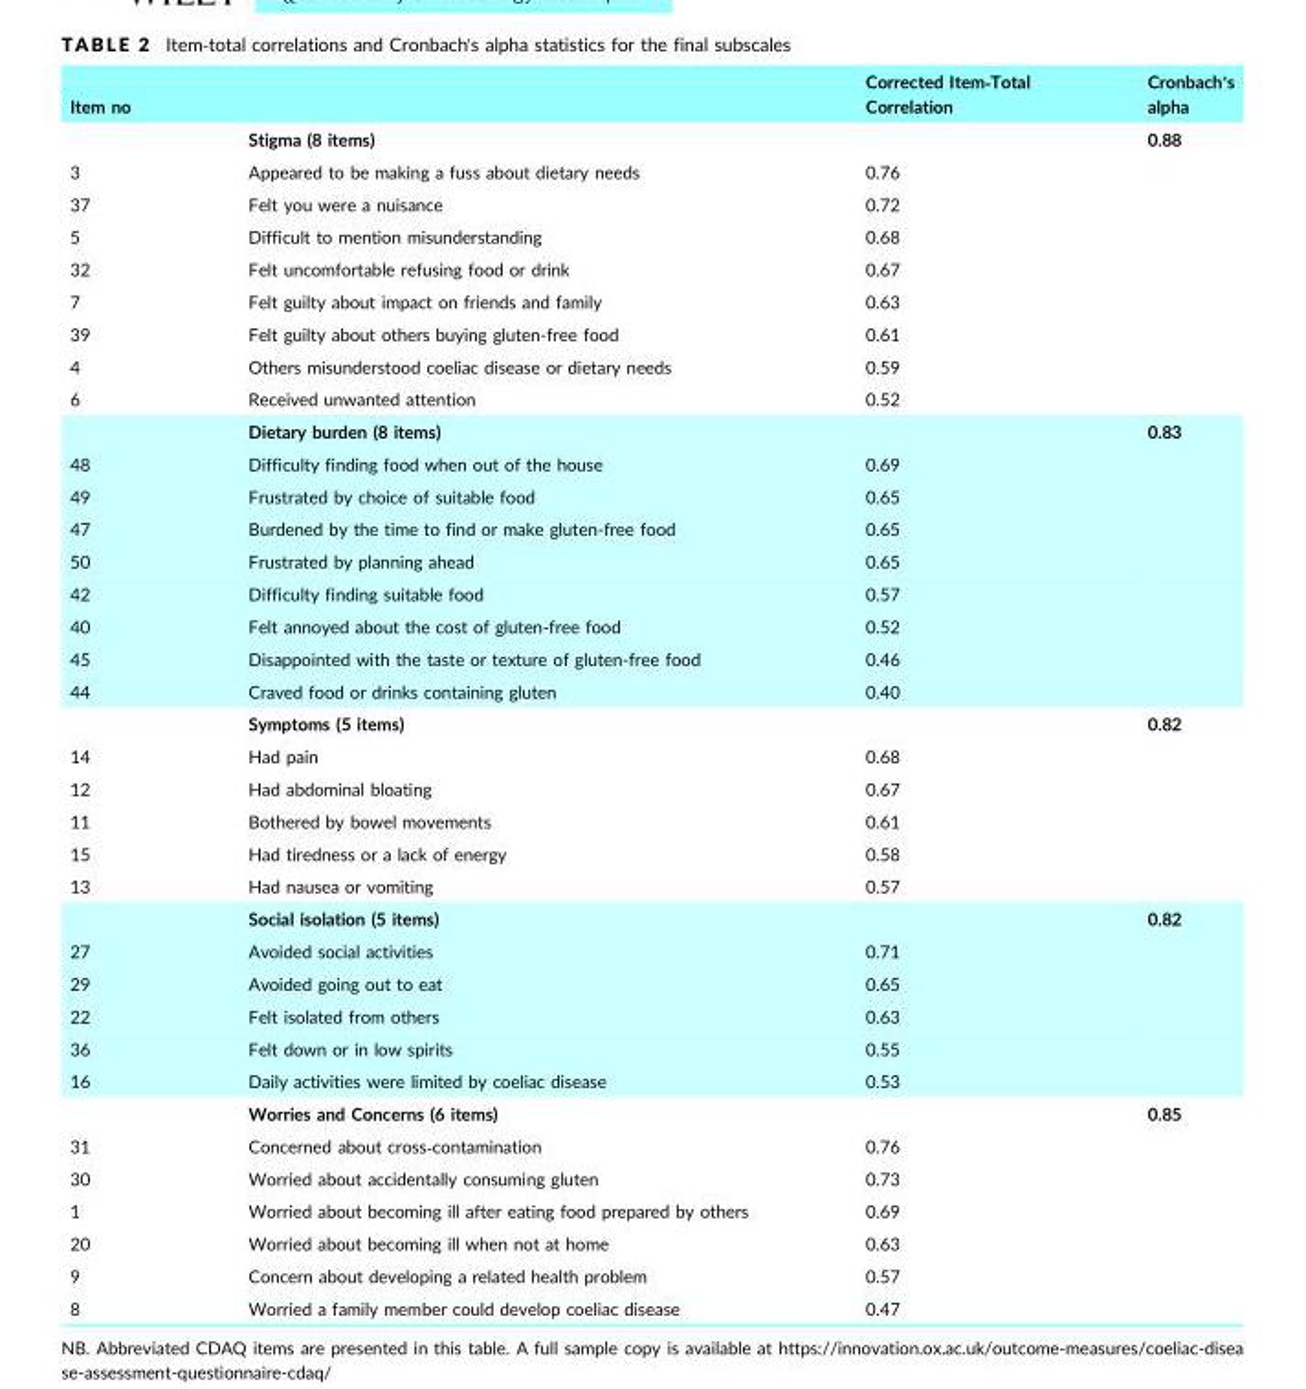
<table><thead><tr><td>Item no</td><td></td><td>Corrected Item‐Total Correlation</td><td>Cronbach&#x27;s alpha</td></tr></thead><tbody><tr><td></td><td>Stigma (8 items)</td><td></td><td>0.88</td></tr><tr><td>3</td><td>Appeared to be making a fuss about dietary needs</td><td>0.76</td><td></td></tr><tr><td>37</td><td>Felt you were a nuisance</td><td>0.72</td><td></td></tr><tr><td>5</td><td>Difficult to mention misunderstanding</td><td>0.68</td><td></td></tr><tr><td>32</td><td>Felt uncomfortable refusing food or drink</td><td>0.67</td><td></td></tr><tr><td>7</td><td>Felt guilty about impact on friends and family</td><td>0.63</td><td></td></tr><tr><td>39</td><td>Felt guilty about others buying gluten-free food</td><td>0.61</td><td></td></tr><tr><td>4</td><td>Others misunderstood coeliac disease or dietary needs</td><td>0.59</td><td></td></tr><tr><td rowspan="2">6</td><td>Received unwanted attention</td><td>0.52</td><td></td></tr><tr><td>Dietary burden (8 items)</td><td></td><td>0.83</td></tr><tr><td>48</td><td>Difficulty finding food when out of the house</td><td>0.69</td><td></td></tr><tr><td>49</td><td>Frustrated by choice of suitable food</td><td>0.65</td><td></td></tr><tr><td>47</td><td>Burdened by the time to find or make gluten-free food</td><td>0.65</td><td></td></tr><tr><td>50</td><td>Frustrated by planning ahead</td><td>0.65</td><td></td></tr><tr><td>42</td><td>Difficulty finding suitable food</td><td>0.57</td><td></td></tr><tr><td>40</td><td>Felt annoyed about the cost of gluten-free food</td><td>0.52</td><td></td></tr><tr><td>45</td><td>Disappointed with the taste or texture of gluten-free food</td><td>0.46</td><td></td></tr><tr><td rowspan="2">44</td><td>Craved food or drinks containing gluten</td><td>0.40</td><td></td></tr><tr><td>Symptoms (5 items)</td><td></td><td>0.82</td></tr><tr><td>14</td><td>Had pain</td><td>0.68</td><td></td></tr><tr><td>12</td><td>Had abdominal bloating</td><td>0.67</td><td></td></tr><tr><td>11</td><td>Bothered by bowel movements</td><td>0.61</td><td></td></tr><tr><td>15</td><td>Had tiredness or a lack of energy</td><td>0.58</td><td></td></tr><tr><td rowspan="2">13</td><td>Had nausea or vomiting</td><td>0.57</td><td></td></tr><tr><td>Social isolation (5 items)</td><td></td><td>0.82</td></tr><tr><td>27</td><td>Avoided social activities</td><td>0.71</td><td></td></tr><tr><td>29</td><td>Avoided going out to eat</td><td>0.65</td><td></td></tr><tr><td>22</td><td>Felt isolated from others</td><td>0.63</td><td></td></tr><tr><td>36</td><td>Felt down or in low spirits</td><td>0.55</td><td></td></tr><tr><td rowspan="2">16</td><td>Daily activities were limited by coeliac disease</td><td>0.53</td><td></td></tr><tr><td>Worries and Concerns (6 items)</td><td></td><td>0.85</td></tr><tr><td>31</td><td>Concerned about cross‐contamination</td><td>0.76</td><td></td></tr><tr><td>30</td><td>Worried about accidentally consuming gluten</td><td>0.73</td><td></td></tr><tr><td>1</td><td>Worried about becoming ill after eating food prepared by others</td><td>0.69</td><td></td></tr><tr><td>20</td><td>Worried about becoming ill when not at home</td><td>0.63</td><td></td></tr><tr><td>9</td><td>Concern about developing a related health problem</td><td>0.57</td><td></td></tr><tr><td>8</td><td>Worried a family member could develop coeliac disease</td><td>0.47</td><td></td></tr></tbody></table>